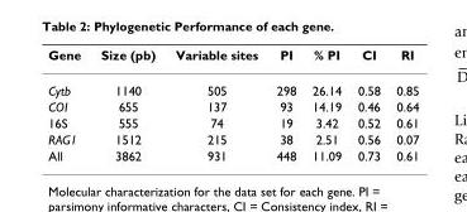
<table><thead><tr><td>Gene</td><td>Size (pb)</td><td>Variable sites</td><td>PI</td><td>% PI</td><td>CI</td><td>RI</td></tr></thead><tbody><tr><td>Cytb</td><td>1140</td><td>505</td><td>298</td><td>26.14</td><td>0.58</td><td>0.85</td></tr><tr><td>COI</td><td>655</td><td>137</td><td>93</td><td>14.19</td><td>0.46</td><td>0.64</td></tr><tr><td>16S</td><td>555</td><td>74</td><td>19</td><td>3.42</td><td>0.52</td><td>0.61</td></tr><tr><td>RAG1</td><td>1512</td><td>215</td><td>38</td><td>2.51</td><td>0.56</td><td>0.07</td></tr><tr><td>All</td><td>3862</td><td>931</td><td>448</td><td>11.09</td><td>0.73</td><td>0.61</td></tr></tbody></table>